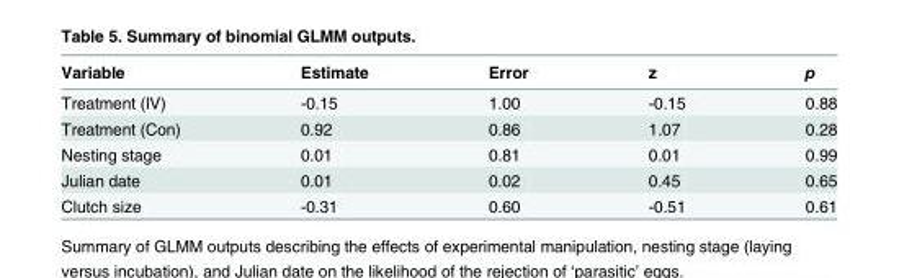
<table><thead><tr><td>Variable</td><td>Estimate</td><td>Error</td><td>z</td><td>p</td></tr></thead><tbody><tr><td>Treatment (IV)</td><td>-0.15</td><td>1.00</td><td>-0.15</td><td>0.88</td></tr><tr><td>Treatment (Con)</td><td>0.92</td><td>0.86</td><td>1.07</td><td>0.28</td></tr><tr><td>Nesting stage</td><td>0.01</td><td>0.81</td><td>0.01</td><td>0.99</td></tr><tr><td>Julian date</td><td>0.01</td><td>0.02</td><td>0.45</td><td>0.65</td></tr><tr><td>Clutch size</td><td>-0.31</td><td>0.60</td><td>-0.51</td><td>0.61</td></tr></tbody></table>